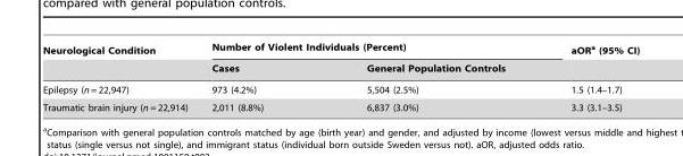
<table><thead><tr><td rowspan="2">Neurological Condition</td><td colspan="2">Number of Violent Individuals (Percent)</td><td rowspan="2">aOR<sup>a</sup> (95% CI)</td></tr><tr><td>Cases</td><td>General Population Controls</td></tr></thead><tbody><tr><td>Epilepsy (n = 22,947)</td><td>973 (4.2%)</td><td>5,504 (2.5%)</td><td>1.5 (1.4–1.7)</td></tr><tr><td>Traumatic brain injury (n = 22,914)</td><td>2,011 (8.8%)</td><td>6,837 (3.0%)</td><td>3.3 (3.1–3.5)</td></tr></tbody></table>